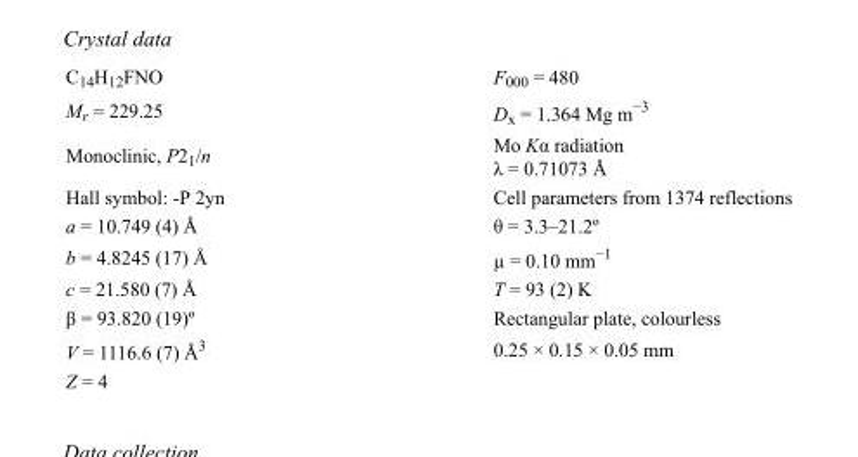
<table><tbody><tr><td>C<sub>14</sub>H<sub>12</sub>FNO</td><td>F000 = 480</td></tr><tr><td>M<sub>r</sub> = 229.25</td><td>D<sub>x</sub> = 1.364 Mg m<sup>−3</sup></td></tr><tr><td>Monoclinic, P2<sub>1</sub>/n</td><td>Mo Kα radiation λ = 0.71073 Å</td></tr><tr><td>Hall symbol: -P 2yn</td><td>Cell parameters from 1374 reflections</td></tr><tr><td>a = 10.749 (4) Å</td><td>θ = 3.3–21.2º</td></tr><tr><td>b = 4.8245 (17) Å</td><td>µ = 0.10 mm<sup>−1</sup></td></tr><tr><td>c = 21.580 (7) Å</td><td>T = 93 (2) K</td></tr><tr><td>β = 93.820 (19)º</td><td>Rectangular plate, colourless</td></tr><tr><td>V = 1116.6 (7) Å<sup>3</sup></td><td>0.25 × 0.15 × 0.05 mm</td></tr><tr><td>Z = 4</td><td></td></tr></tbody></table>